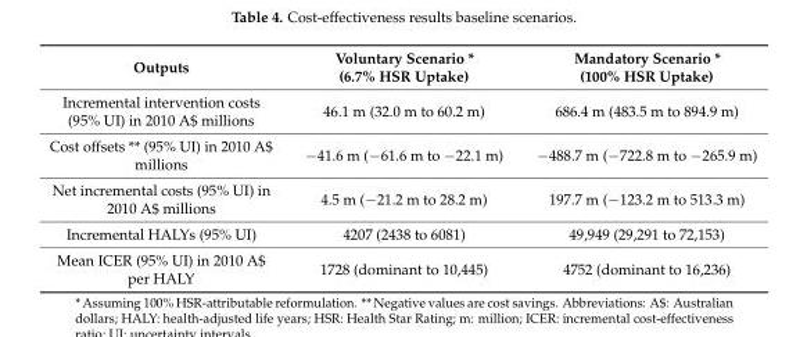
<table><thead><tr><td>Outputs</td><td>Voluntary Scenario * (6.7% HSR Uptake)</td><td>Mandatory Scenario * (100% HSR Uptake)</td></tr></thead><tbody><tr><td>Incremental intervention costs (95% UI) in 2010 A$ millions</td><td>46.1 m (32.0 m to 60.2 m)</td><td>686.4 m (483.5 m to 894.9 m)</td></tr><tr><td>Cost offsets ** (95% UI) in 2010 A$ millions</td><td>−41.6 m (−61.6 m to −22.1 m)</td><td>−488.7 m (−722.8 m to −265.9 m)</td></tr><tr><td>Net incremental costs (95% UI) in 2010 A$ millions</td><td>4.5 m (−21.2 m to 28.2 m)</td><td>197.7 m (−123.2 m to 513.3 m)</td></tr><tr><td>Incremental HALYs (95% UI)</td><td>4207 (2438 to 6081)</td><td>49,949 (29,291 to 72,153)</td></tr><tr><td>Mean ICER (95% UI) in 2010 A$ per HALY</td><td>1728 (dominant to 10,445)</td><td>4752 (dominant to 16,236)</td></tr></tbody></table>